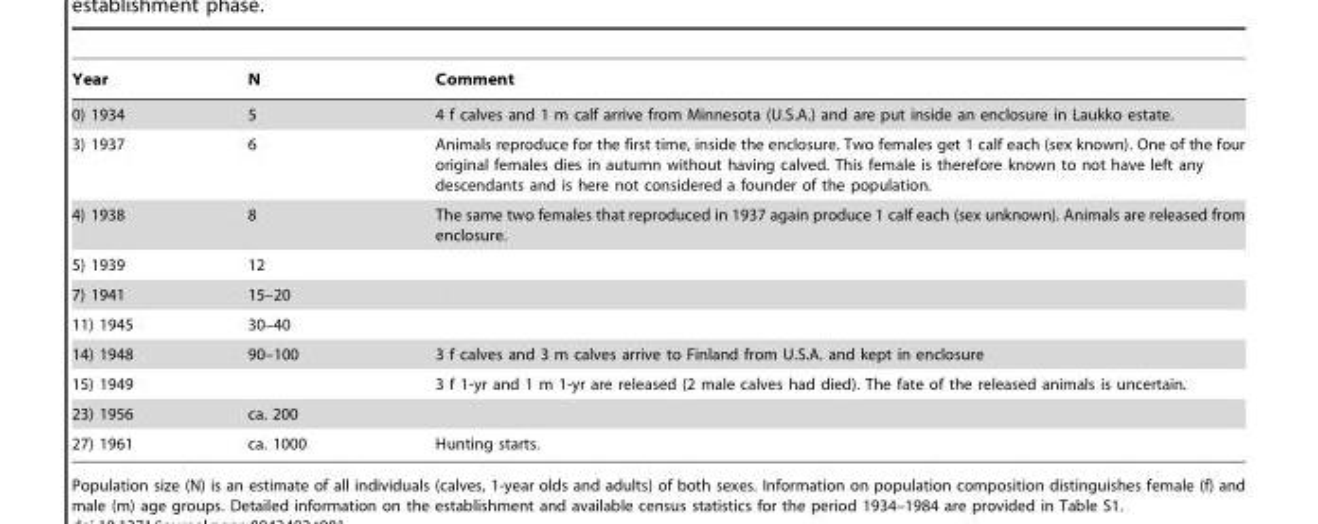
<table><thead><tr><td>Year</td><td>N</td><td>Comment</td></tr></thead><tbody><tr><td>0) 1934</td><td>5</td><td>4 f calves and 1 m calf arrive from Minnesota (U.S.A.) and are put inside an enclosure in Laukko estate.</td></tr><tr><td>3) 1937</td><td>6</td><td>Animals reproduce for the first time, inside the enclosure. Two females get 1 calf each (sex known). One of the four original females dies in autumn without having calved. This female is therefore known to not have left any descendants and is here not considered a founder of the population.</td></tr><tr><td>4) 1938</td><td>8</td><td>The same two females that reproduced in 1937 again produce 1 calf each (sex unknown). Animals are released from enclosure.</td></tr><tr><td>5) 1939</td><td>12</td><td></td></tr><tr><td>7) 1941</td><td>15–20</td><td></td></tr><tr><td>11) 1945</td><td>30–40</td><td></td></tr><tr><td>14) 1948</td><td>90–100</td><td>3 f calves and 3 m calves arrive to Finland from U.S.A. and kept in enclosure</td></tr><tr><td>15) 1949</td><td></td><td>3 f 1-yr and 1 m 1-yr are released (2 male calves had died). The fate of the released animals is uncertain.</td></tr><tr><td>23) 1956</td><td>ca. 200</td><td></td></tr><tr><td>27) 1961</td><td>ca. 1000</td><td>Hunting starts.</td></tr></tbody></table>